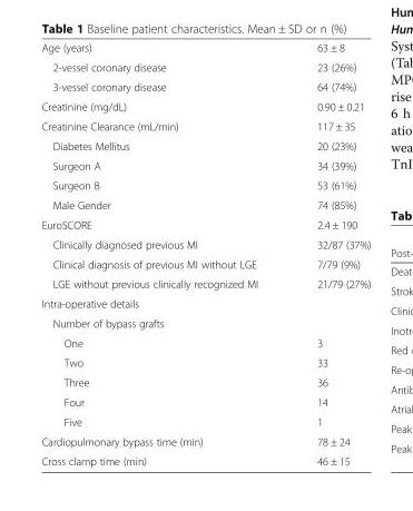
<table><tbody><tr><td>Age (years)</td><td>63 ± 8</td></tr><tr><td>2-vessel coronary disease</td><td>23 (26%)</td></tr><tr><td>3-vessel coronary disease</td><td>64 (74%)</td></tr><tr><td>Creatinine (mg/dL)</td><td>0.90 ± 0.21</td></tr><tr><td>Creatinine Clearance (mL/min)</td><td>117 ± 35</td></tr><tr><td>Diabetes Mellitus</td><td>20 (23%)</td></tr><tr><td>Surgeon A</td><td>34 (39%)</td></tr><tr><td>Surgeon B</td><td>53 (61%)</td></tr><tr><td>Male Gender</td><td>74 (85%)</td></tr><tr><td>EuroSCORE</td><td>2.4 ± 190</td></tr><tr><td>Clinically diagnosed previous MI</td><td>32/87 (37%)</td></tr><tr><td>Clinical diagnosis of previous MI without LGE</td><td>7/79 (9%)</td></tr><tr><td>LGE without previous clinically recognized MI</td><td>21/79 (27%)</td></tr><tr><td colspan="2">Intra-operative details</td></tr><tr><td colspan="2">Number of bypass grafts</td></tr><tr><td>One</td><td>3</td></tr><tr><td>Two</td><td>33</td></tr><tr><td>Three</td><td>36</td></tr><tr><td>Four</td><td>14</td></tr><tr><td>Five</td><td>1</td></tr><tr><td>Cardiopulmonary bypass time (min)</td><td>78 ± 24</td></tr><tr><td>Cross clamp time (min)</td><td>46 ± 15</td></tr></tbody></table>